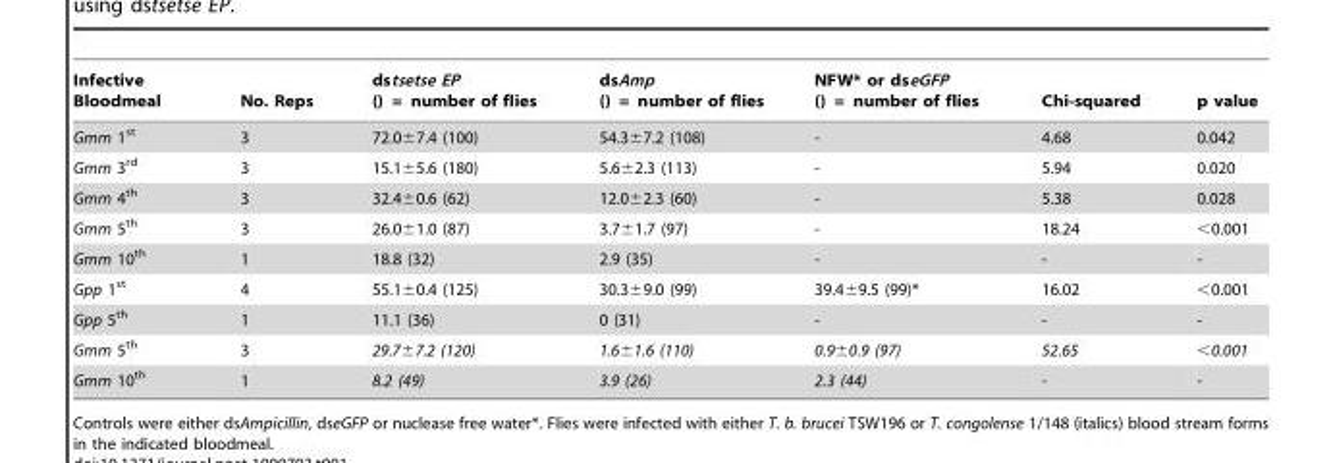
<table><thead><tr><td>Infective Bloodmeal</td><td>No. Reps</td><td>dstsetse EP () = number of flies</td><td>dsAmp () = number of flies</td><td>NFW* or dseGFP () = number of flies</td><td>Chi-squared</td><td>p value</td></tr></thead><tbody><tr><td>Gmm 1<sup>st</sup></td><td>3</td><td>72.0±7.4 (100)</td><td>54.3±7.2 (108)</td><td>-</td><td>4.68</td><td>0.042</td></tr><tr><td>Gmm 3<sup>rd</sup></td><td>3</td><td>15.1±5.6 (180)</td><td>5.6±2.3 (113)</td><td>-</td><td>5.94</td><td>0.020</td></tr><tr><td>Gmm 4<sup>th</sup></td><td>3</td><td>32.4±0.6 (62)</td><td>12.0±2.3 (60)</td><td>-</td><td>5.38</td><td>0.028</td></tr><tr><td>Gmm 5<sup>th</sup></td><td>3</td><td>26.0±1.0 (87)</td><td>3.7±1.7 (97)</td><td>-</td><td>18.24</td><td>&lt;0.001</td></tr><tr><td>Gmm 10<sup>th</sup></td><td>1</td><td>18.8 (32)</td><td>2.9 (35)</td><td>-</td><td>-</td><td>-</td></tr><tr><td>Gpp 1<sup>st</sup></td><td>4</td><td>55.1±0.4 (125)</td><td>30.3±9.0 (99)</td><td>39.4±9.5 (99)*</td><td>16.02</td><td>&lt;0.001</td></tr><tr><td>Gpp 5<sup>th</sup></td><td>1</td><td>11.1 (36)</td><td>0 (31)</td><td>-</td><td>-</td><td>-</td></tr><tr><td>Gmm 5<sup>th</sup></td><td>3</td><td>29.7±7.2 (120)</td><td>1.6±1.6 (110)</td><td>0.9±0.9 (97)</td><td>52.65</td><td>&lt;0.001</td></tr><tr><td>Gmm 10<sup>th</sup></td><td>1</td><td>8.2 (49)</td><td>3.9 (26)</td><td>2.3 (44)</td><td>-</td><td>-</td></tr></tbody></table>